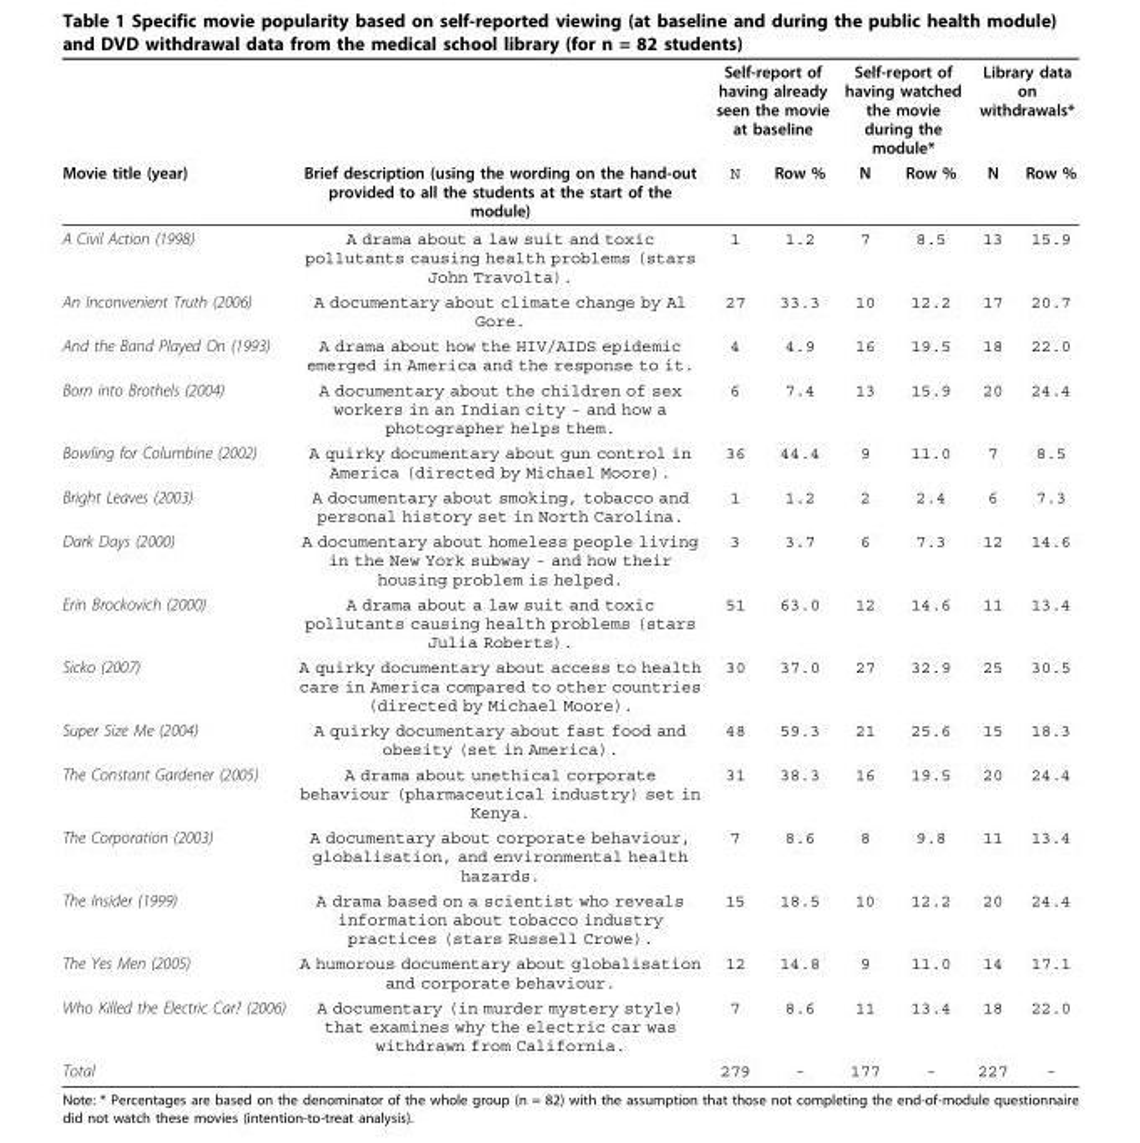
<table><thead><tr><td rowspan="2">Movie title (year)</td><td rowspan="2">Brief description (using the wording on the hand-out provided to all the students at the start of the module)</td><td colspan="2">Self-report of having already seen the movie at baseline</td><td colspan="2">Self-report of having watched the movie during the module*</td><td colspan="2">Library data on withdrawals*</td></tr><tr><td>N</td><td>Row %</td><td>N</td><td>Row %</td><td>N</td><td>Row %</td></tr></thead><tbody><tr><td>A Civil Action (1998)</td><td>A drama about a law suit and toxic pollutants causing health problems (stars John Travolta).</td><td>1</td><td>1.2</td><td>7</td><td>8.5</td><td>13</td><td>15.9</td></tr><tr><td>An Inconvenient Truth (2006)</td><td>A documentary about climate change by Al Gore.</td><td>27</td><td>33.3</td><td>10</td><td>12.2</td><td>17</td><td>20.7</td></tr><tr><td>And the Band Played On (1993)</td><td>A drama about how the HIV/AIDS epidemic emerged in America and the response to it.</td><td>4</td><td>4.9</td><td>16</td><td>19.5</td><td>18</td><td>22.0</td></tr><tr><td>Born into Brothels (2004)</td><td>A documentary about the children of sex workers in an Indian city - and how a photographer helps them.</td><td>6</td><td>7.4</td><td>13</td><td>15.9</td><td>20</td><td>24.4</td></tr><tr><td>Bowling for Columbine (2002)</td><td>A quirky documentary about gun control in America (directed by Michael Moore).</td><td>36</td><td>44.4</td><td>9</td><td>11.0</td><td>7</td><td>8.5</td></tr><tr><td>Bright Leaves (2003)</td><td>A documentary about smoking, tobacco and personal history set in North Carolina.</td><td>1</td><td>1.2</td><td>2</td><td>2.4</td><td>6</td><td>7.3</td></tr><tr><td>Dark Days (2000)</td><td>A documentary about homeless people living in the New York subway - and how their housing problem is helped.</td><td>3</td><td>3.7</td><td>6</td><td>7.3</td><td>12</td><td>14.6</td></tr><tr><td>Erin Brockovich (2000)</td><td>A drama about a law suit and toxic pollutants causing health problems (stars Julia Roberts).</td><td>51</td><td>63.0</td><td>12</td><td>14.6</td><td>11</td><td>13.4</td></tr><tr><td>Sicko (2007)</td><td>A quirky documentary about access to health care in America compared to other countries (directed by Michael Moore).</td><td>30</td><td>37.0</td><td>27</td><td>32.9</td><td>25</td><td>30.5</td></tr><tr><td>Super Size Me (2004)</td><td>A quirky documentary about fast food and obesity (set in America).</td><td>48</td><td>59.3</td><td>21</td><td>25.6</td><td>15</td><td>18.3</td></tr><tr><td>The Constant Gardener (2005)</td><td>A drama about unethical corporate behaviour (pharmaceutical industry) set in Kenya.</td><td>31</td><td>38.3</td><td>16</td><td>19.5</td><td>20</td><td>24.4</td></tr><tr><td>The Corporation (2003)</td><td>A documentary about corporate behaviour, globalisation, and environmental health hazards.</td><td>7</td><td>8.6</td><td>8</td><td>9.8</td><td>11</td><td>13.4</td></tr><tr><td>The Insider (1999)</td><td>A drama based on a scientist who reveals information about tobacco industry practices (stars Russell Crowe).</td><td>15</td><td>18.5</td><td>10</td><td>12.2</td><td>20</td><td>24.4</td></tr><tr><td>The Yes Men (2005)</td><td>A humorous documentary about globalisation and corporate behaviour.</td><td>12</td><td>14.8</td><td>9</td><td>11.0</td><td>14</td><td>17.1</td></tr><tr><td>Who Killed the Electric Car? (2006)</td><td>A documentary (in murder mystery style) that examines why the electric car was withdrawn from California.</td><td>7</td><td>8.6</td><td>11</td><td>13.4</td><td>18</td><td>22.0</td></tr><tr><td>Total</td><td></td><td>279</td><td>-</td><td>177</td><td>-</td><td>227</td><td>-</td></tr></tbody></table>